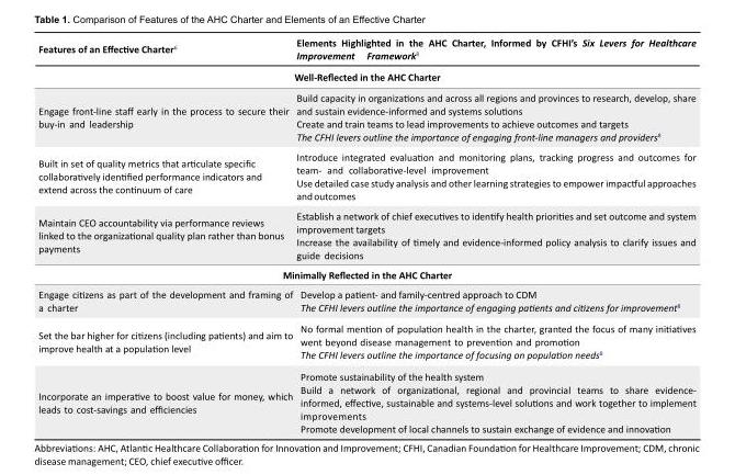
<table><tbody><tr><td>Features of an Effective Charter<sup>6</sup></td><td>Elements Highlighted in the AHC Charter, Informed by CFHI’s Six Levers for Healthcare Improvement Framework<sup>8</sup></td></tr><tr><td colspan="2">Well-Reflected in the AHC Charter</td></tr><tr><td>Engage front-line staff early in the process to secure their buy-in and leadership</td><td>Build capacity in organizations and across all regions and provinces to research, develop, share and sustain evidence-informed and systems solutions Create and train teams to lead improvements to achieve outcomes and targets The CFHI levers outline the importance of engaging front-line managers and providers<sup>8</sup></td></tr><tr><td>Built in set of quality metrics that articulate specific collaboratively identified performance indicators and extend across the continuum of care</td><td>Introduce integrated evaluation and monitoring plans, tracking progress and outcomes for team- and collaborative-level improvement Use detailed case study analysis and other learning strategies to empower impactful approaches and outcomes</td></tr><tr><td>Maintain CEO accountability via performance reviews linked to the organizational quality plan rather than bonus payments</td><td>Establish a network of chief executives to identify health priorities and set outcome and system improvement targets Increase the availability of timely and evidence-informed policy analysis to clarify issues and guide decisions</td></tr><tr><td colspan="2">Minimally Reflected in the AHC Charter</td></tr><tr><td>Engage citizens as part of the development and framing of a charter</td><td>Develop a patient- and family-centred approach to CDM The CFHI levers outline the importance of engaging patients and citizens for improvement<sup>8</sup></td></tr><tr><td>Set the bar higher for citizens (including patients) and aim to improve health at a population level</td><td>No formal mention of population health in the charter, granted the focus of many initiatives went beyond disease management to prevention and promotion The CFHI levers outline the importance of focusing on population needs<sup>8</sup></td></tr><tr><td>Incorporate an imperative to boost value for money, which leads to cost-savings and efficiencies</td><td>Promote sustainability of the health system Build a network of organizational, regional and provincial teams to share evidence- informed, effective, sustainable and systems-level solutions and work together to implement improvements Promote development of local channels to sustain exchange of evidence and innovation</td></tr></tbody></table>